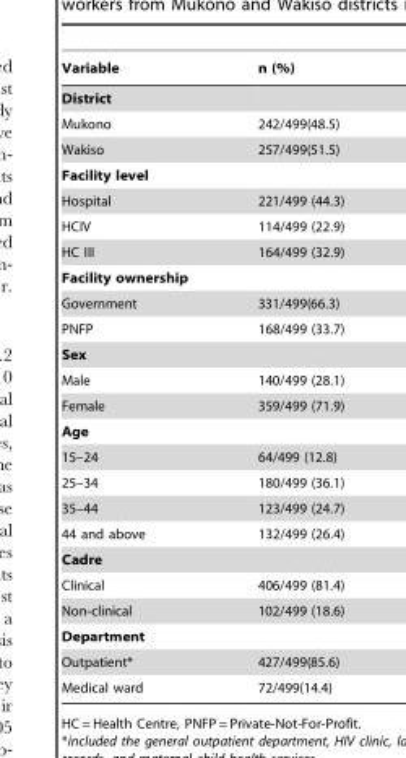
<table><thead><tr><td>Variable</td><td>n (%)</td></tr></thead><tbody><tr><td colspan="2">District</td></tr><tr><td>Mukono</td><td>242/499(48.5)</td></tr><tr><td>Wakiso</td><td>257/499(51.5)</td></tr><tr><td colspan="2">Facility level</td></tr><tr><td>Hospital</td><td>221/499 (44.3)</td></tr><tr><td>HCIV</td><td>114/499 (22.9)</td></tr><tr><td>HC III</td><td>164/499 (32.9)</td></tr><tr><td colspan="2">Facility ownership</td></tr><tr><td>Government</td><td>331/499(66.3)</td></tr><tr><td>PNFP</td><td>168/499 (33.7)</td></tr><tr><td colspan="2">Sex</td></tr><tr><td>Male</td><td>140/499 (28.1)</td></tr><tr><td>Female</td><td>359/499 (71.9)</td></tr><tr><td colspan="2">Age</td></tr><tr><td>15–24</td><td>64/499 (12.8)</td></tr><tr><td>25–34</td><td>180/499 (36.1)</td></tr><tr><td>35–44</td><td>123/499 (24.7)</td></tr><tr><td>44 and above</td><td>132/499 (26.4)</td></tr><tr><td colspan="2">Cadre</td></tr><tr><td>Clinical</td><td>406/499 (81.4)</td></tr><tr><td>Non-clinical</td><td>102/499 (18.6)</td></tr><tr><td colspan="2">Department</td></tr><tr><td>Outpatient*</td><td>427/499(85.6)</td></tr><tr><td>Medical ward</td><td>72/499(14.4)</td></tr></tbody></table>